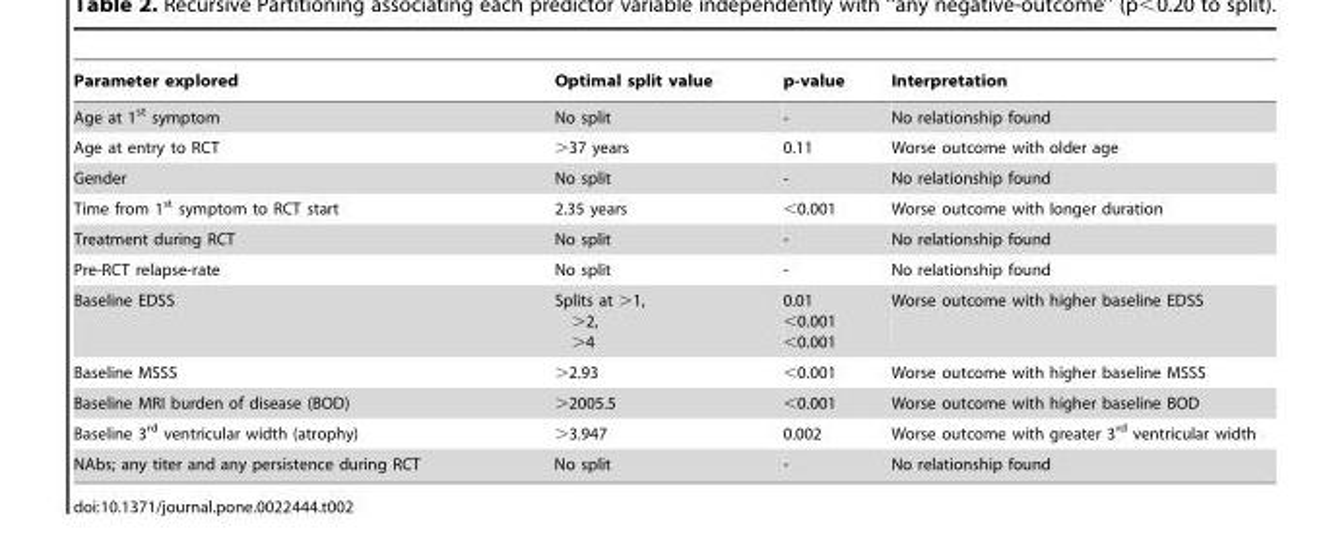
<table><thead><tr><td>Parameter explored</td><td>Optimal split value</td><td>p-value</td><td>Interpretation</td></tr></thead><tbody><tr><td>Age at 1<sup>st</sup> symptom</td><td>No split</td><td>-</td><td>No relationship found</td></tr><tr><td>Age at entry to RCT</td><td>&gt;37 years</td><td>0.11</td><td>Worse outcome with older age</td></tr><tr><td>Gender</td><td>No split</td><td>-</td><td>No relationship found</td></tr><tr><td>Time from 1<sup>st</sup> symptom to RCT start</td><td>2.35 years</td><td>&lt;0.001</td><td>Worse outcome with longer duration</td></tr><tr><td>Treatment during RCT</td><td>No split</td><td>-</td><td>No relationship found</td></tr><tr><td>Pre-RCT relapse-rate</td><td>No split</td><td>-</td><td>No relationship found</td></tr><tr><td>Baseline EDSS</td><td>Splits at &gt;1, &gt;2, &gt;4</td><td>0.01 &lt;0.001 &lt;0.001</td><td>Worse outcome with higher baseline EDSS</td></tr><tr><td>Baseline MSSS</td><td>&gt;2.93</td><td>&lt;0.001</td><td>Worse outcome with higher baseline MSSS</td></tr><tr><td>Baseline MRI burden of disease (BOD)</td><td>&gt;2005.5</td><td>&lt;0.001</td><td>Worse outcome with higher baseline BOD</td></tr><tr><td>Baseline 3<sup>rd</sup> ventricular width (atrophy)</td><td>&gt;3.947</td><td>0.002</td><td>Worse outcome with greater 3<sup>rd</sup> ventricular width</td></tr><tr><td>NAbs; any titer and any persistence during RCT</td><td>No split</td><td>-</td><td>No relationship found</td></tr></tbody></table>